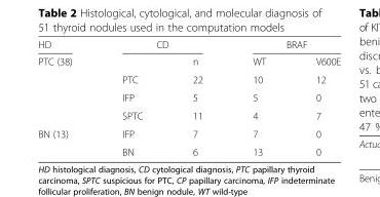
<table><tbody><tr><td>HD</td><td colspan="2">CD</td><td colspan="2">BRAF</td></tr><tr><td rowspan="4">PTC (38)</td><td></td><td>n</td><td>WT</td><td>V600E</td></tr><tr><td>PTC</td><td>22</td><td>10</td><td>12</td></tr><tr><td>IFP</td><td>5</td><td>5</td><td>0</td></tr><tr><td>SPTC</td><td>11</td><td>4</td><td>7</td></tr><tr><td rowspan="2">BN (13)</td><td>IFP</td><td>7</td><td>7</td><td>0</td></tr><tr><td>BN</td><td>6</td><td>13</td><td>0</td></tr></tbody></table>